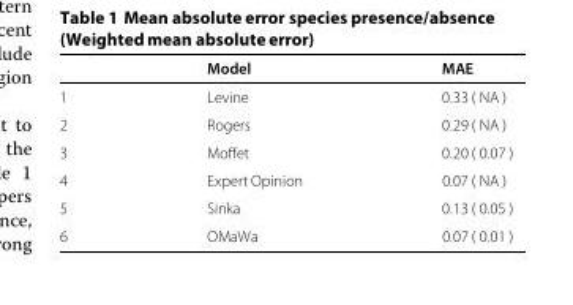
<table><thead><tr><td></td><td>Model</td><td>MAE</td></tr></thead><tbody><tr><td>1</td><td>Levine</td><td>0.33 ( NA )</td></tr><tr><td>2</td><td>Rogers</td><td>0.29 ( NA )</td></tr><tr><td>3</td><td>Moffet</td><td>0.20 ( 0.07 )</td></tr><tr><td>4</td><td>Expert Opinion</td><td>0.07 ( NA )</td></tr><tr><td>5</td><td>Sinka</td><td>0.13 ( 0.05 )</td></tr><tr><td>6</td><td>OMaWa</td><td>0.07 ( 0.01 )</td></tr></tbody></table>